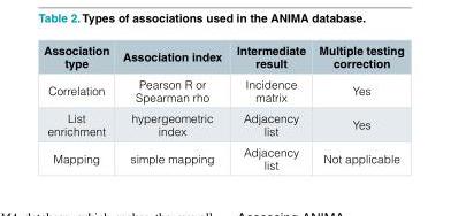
<table><thead><tr><td>Association type</td><td>Association index</td><td>Intermediate result</td><td>Multiple testing correction</td></tr></thead><tbody><tr><td>Correlation</td><td>Pearson R or Spearman rho</td><td>Incidence matrix</td><td>Yes</td></tr><tr><td>List enrichment</td><td>hypergeometric index</td><td>Adjacency list</td><td>Yes</td></tr><tr><td>Mapping</td><td>simple mapping</td><td>Adjacency list</td><td>Not applicable</td></tr></tbody></table>